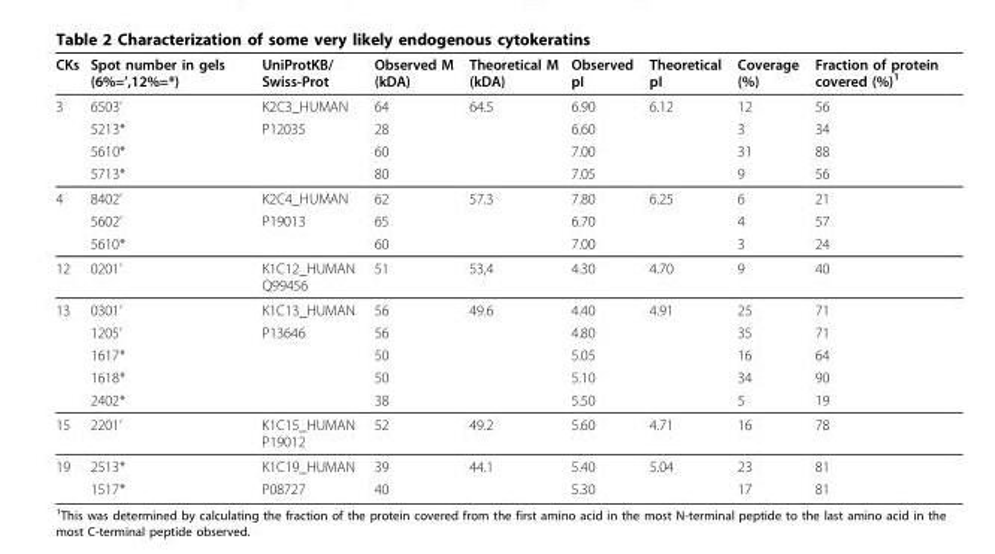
<table><thead><tr><td>CKs</td><td>Spot number in gels (6%=’,12%=*)</td><td>UniProtKB/ Swiss-Prot</td><td>Observed M (kDA)</td><td>Theoretical M (kDA)</td><td>Observed pI</td><td>Theoretical pI</td><td>Coverage (%)</td><td>Fraction of protein covered (%)<sup>1</sup></td></tr></thead><tbody><tr><td rowspan="4">3</td><td>6503’</td><td>K2C3_HUMAN</td><td>64</td><td>64.5</td><td>6.90</td><td>6.12</td><td>12</td><td>56</td></tr><tr><td>5213*</td><td>P12035</td><td>28</td><td></td><td>6.60</td><td></td><td>3</td><td>34</td></tr><tr><td>5610*</td><td></td><td>60</td><td></td><td>7.00</td><td></td><td>31</td><td>88</td></tr><tr><td>5713*</td><td></td><td>80</td><td></td><td>7.05</td><td></td><td>9</td><td>56</td></tr><tr><td rowspan="3">4</td><td>8402’</td><td>K2C4_HUMAN</td><td>62</td><td>57.3</td><td>7.80</td><td>6.25</td><td>6</td><td>21</td></tr><tr><td>5602’</td><td>P19013</td><td>65</td><td></td><td>6.70</td><td></td><td>4</td><td>57</td></tr><tr><td>5610*</td><td></td><td>60</td><td></td><td>7.00</td><td></td><td>3</td><td>24</td></tr><tr><td>12</td><td>0201’</td><td>K1C12_HUMAN Q99456</td><td>51</td><td>53,4</td><td>4.30</td><td>4.70</td><td>9</td><td>40</td></tr><tr><td rowspan="5">13</td><td>0301’</td><td>K1C13_HUMAN</td><td>56</td><td>49.6</td><td>4.40</td><td>4.91</td><td>25</td><td>71</td></tr><tr><td>1205’</td><td>P13646</td><td>56</td><td></td><td>4.80</td><td></td><td>35</td><td>71</td></tr><tr><td>1617*</td><td></td><td>50</td><td></td><td>5.05</td><td></td><td>16</td><td>64</td></tr><tr><td>1618*</td><td></td><td>50</td><td></td><td>5.10</td><td></td><td>34</td><td>90</td></tr><tr><td>2402*</td><td></td><td>38</td><td></td><td>5.50</td><td></td><td>5</td><td>19</td></tr><tr><td>15</td><td>2201’</td><td>K1C15_HUMAN P19012</td><td>52</td><td>49.2</td><td>5.60</td><td>4.71</td><td>16</td><td>78</td></tr><tr><td rowspan="2">19</td><td>2513*</td><td>K1C19_HUMAN</td><td>39</td><td>44.1</td><td>5.40</td><td>5.04</td><td>23</td><td>81</td></tr><tr><td>1517*</td><td>P08727</td><td>40</td><td></td><td>5.30</td><td></td><td>17</td><td>81</td></tr></tbody></table>